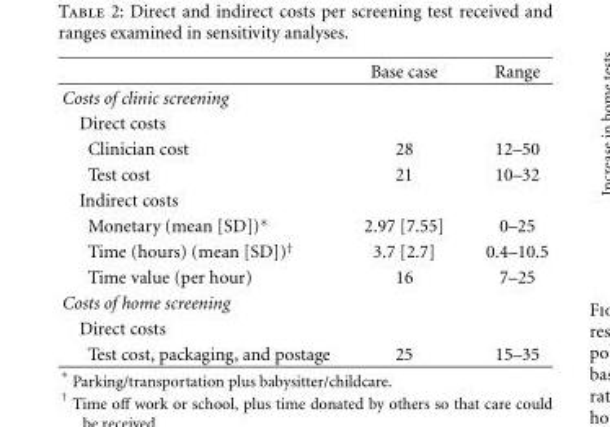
<table><thead><tr><td></td><td>Base case</td><td>Range</td></tr></thead><tbody><tr><td colspan="3">Costs of clinic screening</td></tr><tr><td colspan="3">Direct costs</td></tr><tr><td>Clinician cost</td><td>28</td><td>12–50</td></tr><tr><td>Test cost</td><td>21</td><td>10–32</td></tr><tr><td colspan="3">Indirect costs</td></tr><tr><td>Monetary (mean [SD])∗</td><td>2.97 [7.55]</td><td>0–25</td></tr><tr><td>Time (hours) (mean [SD])<sup>†</sup></td><td>3.7 [2.7]</td><td>0.4–10.5</td></tr><tr><td>Time value (per hour)</td><td>16</td><td>7–25</td></tr><tr><td colspan="3">Costs of home screening</td></tr><tr><td colspan="3">Direct costs</td></tr><tr><td>Test cost, packaging, and postage</td><td>25</td><td>15–35</td></tr></tbody></table>